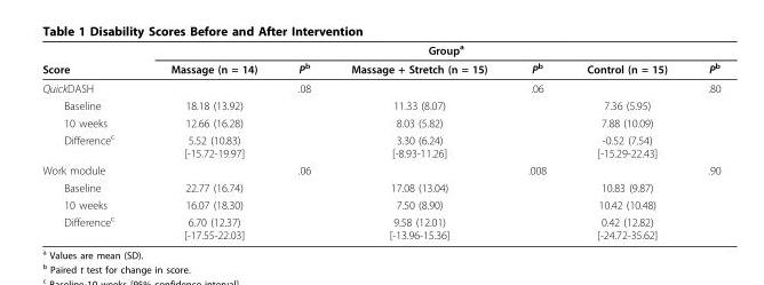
<table><thead><tr><td rowspan="2">Score</td><td colspan="6">Group<sup>a</sup></td></tr><tr><td>Massage (n = 14)</td><td>P<sup>b</sup></td><td>Massage + Stretch (n = 15)</td><td>P<sup>b</sup></td><td>Control (n = 15)</td><td>P<sup>b</sup></td></tr></thead><tbody><tr><td>QuickDASH</td><td></td><td>.08</td><td></td><td>.06</td><td></td><td>.80</td></tr><tr><td>Baseline</td><td>18.18 (13.92)</td><td></td><td>11.33 (8.07)</td><td></td><td>7.36 (5.95)</td><td></td></tr><tr><td>10 weeks</td><td>12.66 (16.28)</td><td></td><td>8.03 (5.82)</td><td></td><td>7.88 (10.09)</td><td></td></tr><tr><td>Difference<sup>c</sup></td><td>5.52 (10.83) [-15.72-19.97]</td><td></td><td>3.30 (6.24) [-8.93-11.26]</td><td></td><td>-0.52 (7.54) [-15.29-22.43]</td><td></td></tr><tr><td>Work module</td><td></td><td>.06</td><td></td><td>.008</td><td></td><td>.90</td></tr><tr><td>Baseline</td><td>22.77 (16.74)</td><td></td><td>17.08 (13.04)</td><td></td><td>10.83 (9.87)</td><td></td></tr><tr><td>10 weeks</td><td>16.07 (18.30)</td><td></td><td>7.50 (8.90)</td><td></td><td>10.42 (10.48)</td><td></td></tr><tr><td>Difference<sup>c</sup></td><td>6.70 (12.37) [-17.55-22.03]</td><td></td><td>9.58 (12.01) [-13.96-15.36]</td><td></td><td>0.42 (12.82) [-24.72-35.62]</td><td></td></tr></tbody></table>